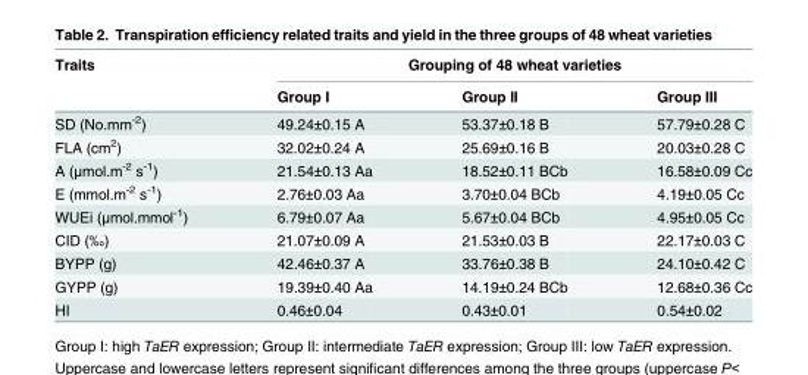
<table><thead><tr><td rowspan="2">Traits</td><td colspan="3">Grouping of 48 wheat varieties</td></tr><tr><td>Group I</td><td>Group II</td><td>Group III</td></tr></thead><tbody><tr><td>SD (No.mm<sup>-2</sup>)</td><td>49.24±0.15 A</td><td>53.37±0.18 B</td><td>57.79±0.28 C</td></tr><tr><td>FLA (cm<sup>2</sup>)</td><td>32.02±0.24 A</td><td>25.69±0.16 B</td><td>20.03±0.28 C</td></tr><tr><td>A (μmol.m<sup>-2</sup> s<sup>-1</sup>)</td><td>21.54±0.13 Aa</td><td>18.52±0.11 BCb</td><td>16.58±0.09 Cc</td></tr><tr><td>E (mmol.m<sup>-2</sup> s<sup>-1</sup>)</td><td>2.76±0.03 Aa</td><td>3.70±0.04 BCb</td><td>4.19±0.05 Cc</td></tr><tr><td>WUEi (μmol.mmol<sup>-1</sup>)</td><td>6.79±0.07 Aa</td><td>5.67±0.04 BCb</td><td>4.95±0.05 Cc</td></tr><tr><td>CID (‰)</td><td>21.07±0.09 A</td><td>21.53±0.03 B</td><td>22.17±0.03 C</td></tr><tr><td>BYPP (g)</td><td>42.46±0.37 A</td><td>33.76±0.38 B</td><td>24.10±0.42 C</td></tr><tr><td>GYPP (g)</td><td>19.39±0.40 Aa</td><td>14.19±0.24 BCb</td><td>12.68±0.36 Cc</td></tr><tr><td>HI</td><td>0.46±0.04</td><td>0.43±0.01</td><td>0.54±0.02</td></tr></tbody></table>